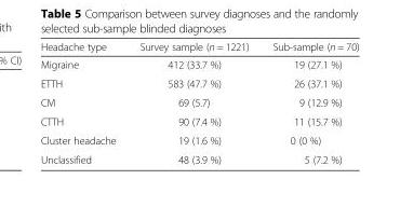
<table><thead><tr><td>Headache type</td><td>Survey sample (n = 1221)</td><td>Sub-sample (n = 70)</td></tr></thead><tbody><tr><td>Migraine</td><td>412 (33.7 %)</td><td>19 (27.1 %)</td></tr><tr><td>ETTH</td><td>583 (47.7 %)</td><td>26 (37.1 %)</td></tr><tr><td>CM</td><td>69 (5.7)</td><td>9 (12.9 %)</td></tr><tr><td>CTTH</td><td>90 (7.4 %)</td><td>11 (15.7 %)</td></tr><tr><td>Cluster headache</td><td>19 (1.6 %)</td><td>0 (0 %)</td></tr><tr><td>Unclassified</td><td>48 (3.9 %)</td><td>5 (7.2 %)</td></tr></tbody></table>